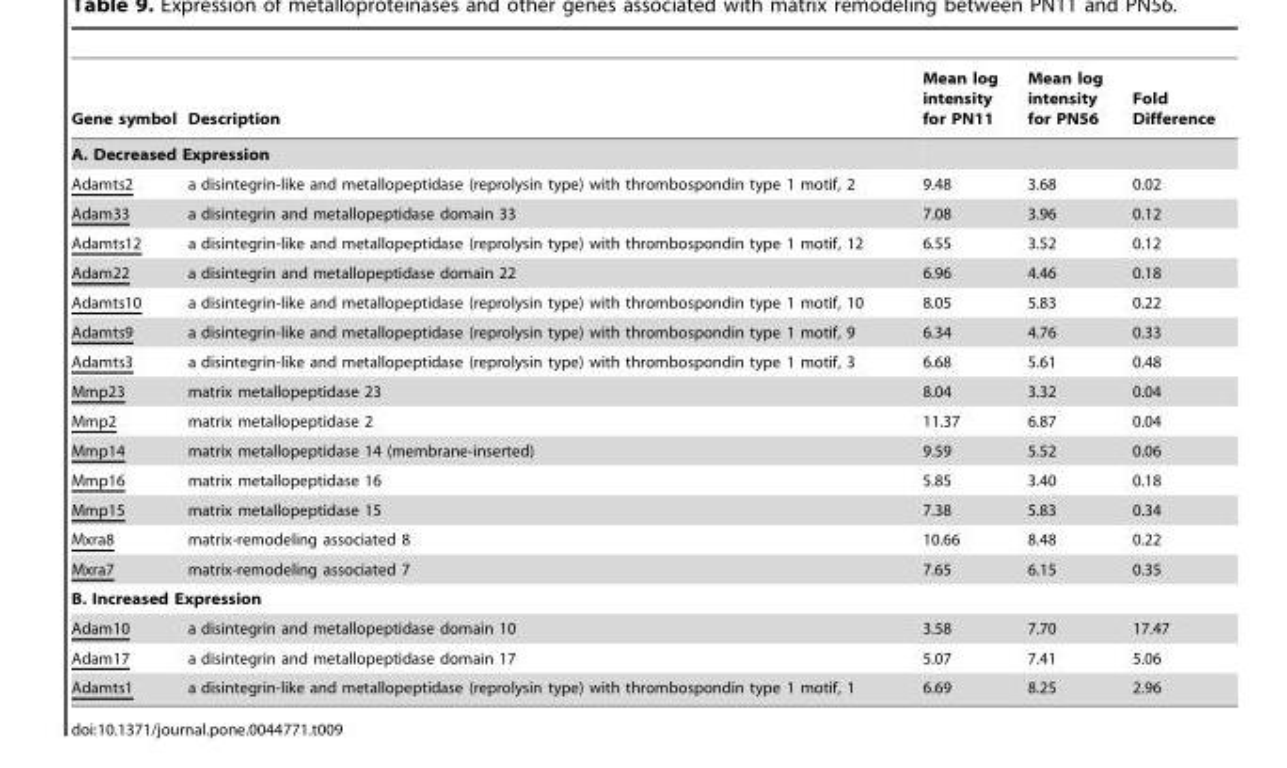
<table><thead><tr><td>Gene symbol</td><td>Description</td><td>Mean log intensity for PN11</td><td>Mean log intensity for PN56</td><td>Fold Difference</td></tr></thead><tbody><tr><td colspan="5">A. Decreased Expression</td></tr><tr><td>Adamts2</td><td>a disintegrin-like and metallopeptidase (reprolysin type) with thrombospondin type 1 motif, 2</td><td>9.48</td><td>3.68</td><td>0.02</td></tr><tr><td>Adam33</td><td>a disintegrin and metallopeptidase domain 33</td><td>7.08</td><td>3.96</td><td>0.12</td></tr><tr><td>Adamts12</td><td>a disintegrin-like and metallopeptidase (reprolysin type) with thrombospondin type 1 motif, 12</td><td>6.55</td><td>3.52</td><td>0.12</td></tr><tr><td>Adam22</td><td>a disintegrin and metallopeptidase domain 22</td><td>6.96</td><td>4.46</td><td>0.18</td></tr><tr><td>Adamts10</td><td>a disintegrin-like and metallopeptidase (reprolysin type) with thrombospondin type 1 motif, 10</td><td>8.05</td><td>5.83</td><td>0.22</td></tr><tr><td>Adamts9</td><td>a disintegrin-like and metallopeptidase (reprolysin type) with thrombospondin type 1 motif, 9</td><td>6.34</td><td>4.76</td><td>0.33</td></tr><tr><td>Adamts3</td><td>a disintegrin-like and metallopeptidase (reprolysin type) with thrombospondin type 1 motif, 3</td><td>6.68</td><td>5.61</td><td>0.48</td></tr><tr><td>Mmp23</td><td>matrix metallopeptidase 23</td><td>8.04</td><td>3.32</td><td>0.04</td></tr><tr><td>Mmp2</td><td>matrix metallopeptidase 2</td><td>11.37</td><td>6.87</td><td>0.04</td></tr><tr><td>Mmp14</td><td>matrix metallopeptidase 14 (membrane-inserted)</td><td>9.59</td><td>5.52</td><td>0.06</td></tr><tr><td>Mmp16</td><td>matrix metallopeptidase 16</td><td>5.85</td><td>3.40</td><td>0.18</td></tr><tr><td>Mmp15</td><td>matrix metallopeptidase 15</td><td>7.38</td><td>5.83</td><td>0.34</td></tr><tr><td>Mxra8</td><td>matrix-remodeling associated 8</td><td>10.66</td><td>8.48</td><td>0.22</td></tr><tr><td>Mxra7</td><td>matrix-remodeling associated 7</td><td>7.65</td><td>6.15</td><td>0.35</td></tr><tr><td colspan="5">B. Increased Expression</td></tr><tr><td>Adam10</td><td>a disintegrin and metallopeptidase domain 10</td><td>3.58</td><td>7.70</td><td>17.47</td></tr><tr><td>Adam17</td><td>a disintegrin and metallopeptidase domain 17</td><td>5.07</td><td>7.41</td><td>5.06</td></tr><tr><td>Adamts1</td><td>a disintegrin-like and metallopeptidase (reprolysin type) with thrombospondin type 1 motif, 1</td><td>6.69</td><td>8.25</td><td>2.96</td></tr></tbody></table>